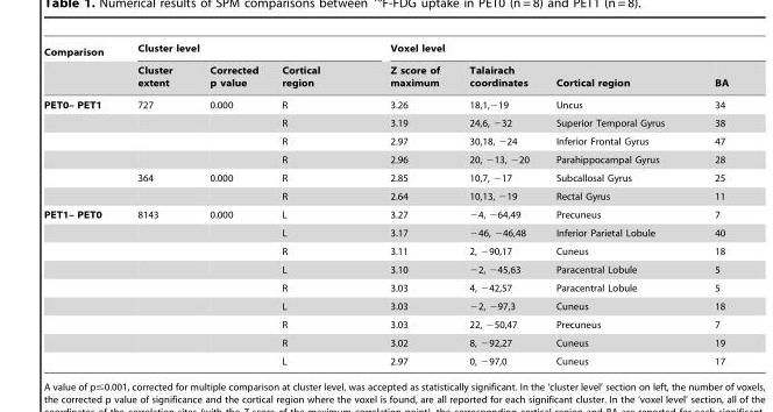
<table><thead><tr><td rowspan="2">Comparison</td><td colspan="3">Cluster level</td><td colspan="4">Voxel level</td></tr><tr><td>Cluster extent</td><td>Corrected p value</td><td>Cortical region</td><td>Z score of maximum</td><td>Talairach coordinates</td><td>Cortical region</td><td>BA</td></tr></thead><tbody><tr><td rowspan="6">PET0– PET1</td><td>727</td><td>0.000</td><td>R</td><td>3.26</td><td>18,1,−19</td><td>Uncus</td><td>34</td></tr><tr><td></td><td></td><td>R</td><td>3.19</td><td>24,6, −32</td><td>Superior Temporal Gyrus</td><td>38</td></tr><tr><td></td><td></td><td>R</td><td>2.97</td><td>30,18, −24</td><td>Inferior Frontal Gyrus</td><td>47</td></tr><tr><td></td><td></td><td>R</td><td>2.96</td><td>20, −13, −20</td><td>Parahippocampal Gyrus</td><td>28</td></tr><tr><td>364</td><td>0.000</td><td>R</td><td>2.85</td><td>10,7, −17</td><td>Subcallosal Gyrus</td><td>25</td></tr><tr><td></td><td></td><td>R</td><td>2.64</td><td>10,13, −19</td><td>Rectal Gyrus</td><td>11</td></tr><tr><td rowspan="9">PET1– PET0</td><td>8143</td><td>0.000</td><td>L</td><td>3.27</td><td>−4, −64,49</td><td>Precuneus</td><td>7</td></tr><tr><td></td><td></td><td>L</td><td>3.17</td><td>−46, −46,48</td><td>Inferior Parietal Lobule</td><td>40</td></tr><tr><td></td><td></td><td>R</td><td>3.11</td><td>2, −90,17</td><td>Cuneus</td><td>18</td></tr><tr><td></td><td></td><td>L</td><td>3.10</td><td>−2, −45,63</td><td>Paracentral Lobule</td><td>5</td></tr><tr><td></td><td></td><td>R</td><td>3.03</td><td>4, −42,57</td><td>Paracentral Lobule</td><td>5</td></tr><tr><td></td><td></td><td>L</td><td>3.03</td><td>−2, −97,3</td><td>Cuneus</td><td>18</td></tr><tr><td></td><td></td><td>R</td><td>3.03</td><td>22, −50,47</td><td>Precuneus</td><td>7</td></tr><tr><td></td><td></td><td>R</td><td>3.02</td><td>8, −92,27</td><td>Cuneus</td><td>19</td></tr><tr><td></td><td></td><td>L</td><td>2.97</td><td>0, −97,0</td><td>Cuneus</td><td>17</td></tr></tbody></table>